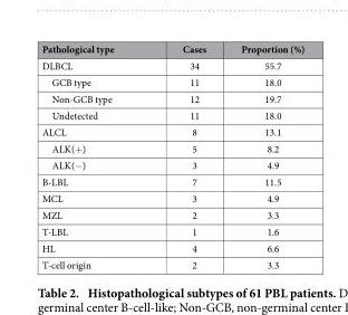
<table><thead><tr><td>Pathological type</td><td>Cases</td><td>Proportion (%)</td></tr></thead><tbody><tr><td>DLBCL</td><td>34</td><td>55.7</td></tr><tr><td>GCB type</td><td>11</td><td>18.0</td></tr><tr><td>Non-GCB type</td><td>12</td><td>19.7</td></tr><tr><td>Undetected</td><td>11</td><td>18.0</td></tr><tr><td>ALCL</td><td>8</td><td>13.1</td></tr><tr><td>ALK(+ )</td><td>5</td><td>8.2</td></tr><tr><td>ALK(− )</td><td>3</td><td>4.9</td></tr><tr><td>B-LBL</td><td>7</td><td>11.5</td></tr><tr><td>MCL</td><td>3</td><td>4.9</td></tr><tr><td>MZL</td><td>2</td><td>3.3</td></tr><tr><td>T-LBL</td><td>1</td><td>1.6</td></tr><tr><td>HL</td><td>4</td><td>6.6</td></tr><tr><td>T-cell origin</td><td>2</td><td>3.3</td></tr></tbody></table>